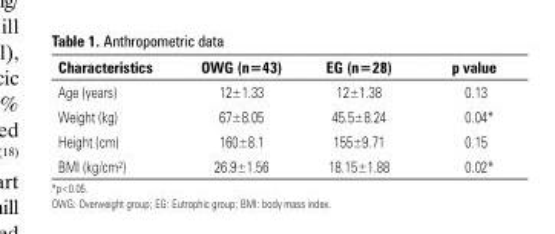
<table><thead><tr><td>Characteristics</td><td>OWG (n=43)</td><td>EG (n=28)</td><td>p value</td></tr></thead><tbody><tr><td>Age (years)</td><td>12±1.33</td><td>12±1.38</td><td>0.13</td></tr><tr><td>Weight (kg)</td><td>67±8.05</td><td>45.5±8.24</td><td>0.04*</td></tr><tr><td>Height (cm)</td><td>160±8.1</td><td>155±9.71</td><td>0.15</td></tr><tr><td>BMI (kg/cm²)</td><td>26.9±1.56</td><td>18.15±1.88</td><td>0.02*</td></tr></tbody></table>